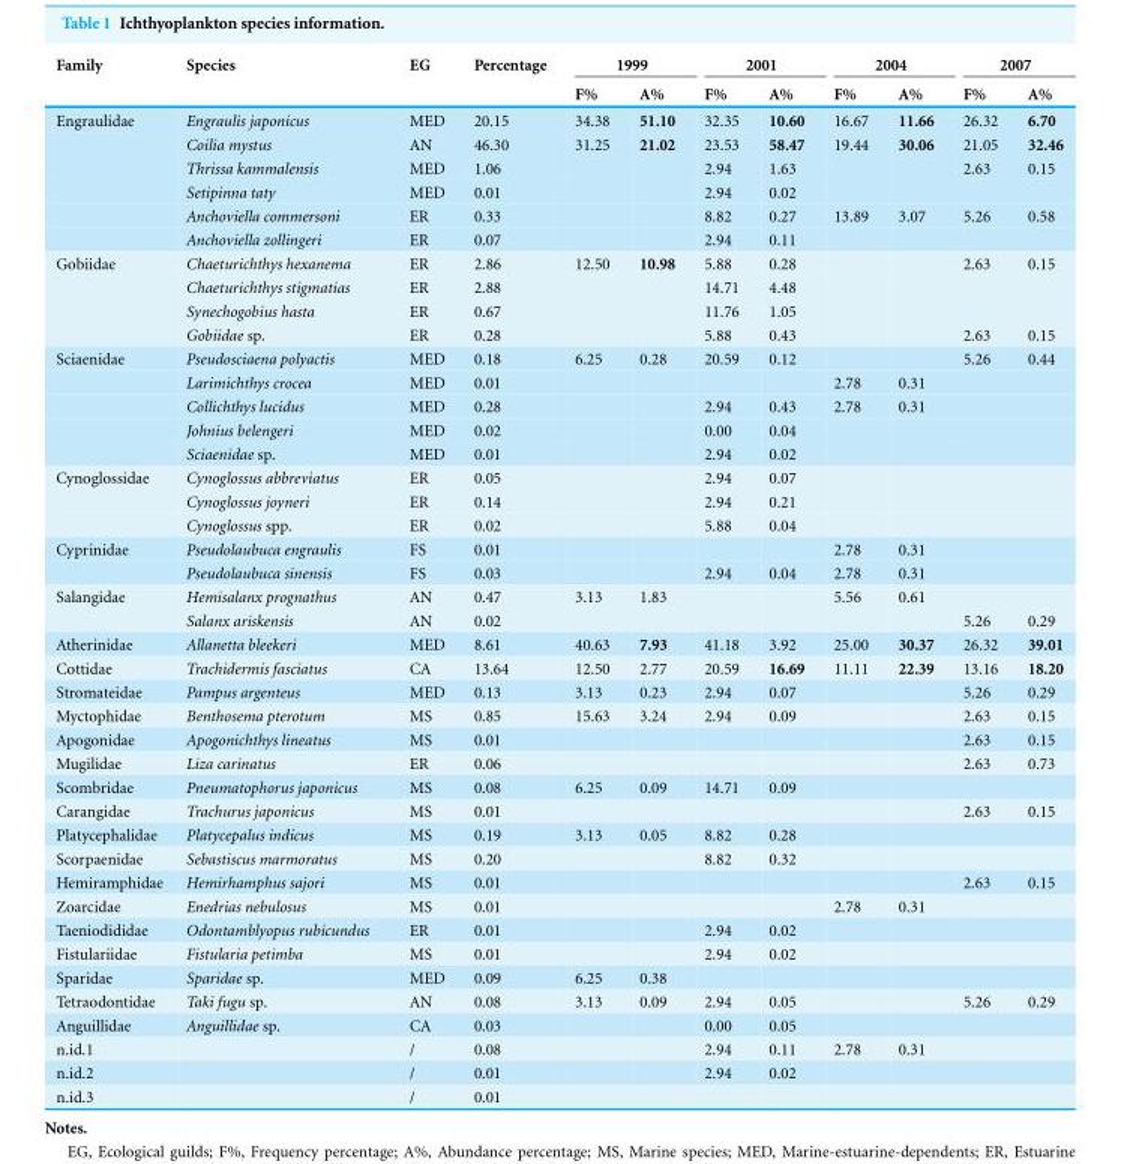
<table><thead><tr><td rowspan="2">Family</td><td rowspan="2">Species</td><td rowspan="2">EG</td><td rowspan="2">Percentage</td><td colspan="2">1999</td><td colspan="2">2001</td><td colspan="2">2004</td><td colspan="2">2007</td></tr><tr><td>F%</td><td>A%</td><td>F%</td><td>A%</td><td>F%</td><td>A%</td><td>F%</td><td>A%</td></tr></thead><tbody><tr><td rowspan="6">Engraulidae</td><td>Engraulis japonicus</td><td>MED</td><td>20.15</td><td>34.38</td><td>51.10</td><td>32.35</td><td>10.60</td><td>16.67</td><td>11.66</td><td>26.32</td><td>6.70</td></tr><tr><td>Coilia mystus</td><td>AN</td><td>46.30</td><td>31.25</td><td>21.02</td><td>23.53</td><td>58.47</td><td>19.44</td><td>30.06</td><td>21.05</td><td>32.46</td></tr><tr><td>Thrissa kammalensis</td><td>MED</td><td>1.06</td><td></td><td></td><td>2.94</td><td>1.63</td><td></td><td></td><td>2.63</td><td>0.15</td></tr><tr><td>Setipinna taty</td><td>MED</td><td>0.01</td><td></td><td></td><td>2.94</td><td>0.02</td><td></td><td></td><td></td><td></td></tr><tr><td>Anchoviella commersoni</td><td>ER</td><td>0.33</td><td></td><td></td><td>8.82</td><td>0.27</td><td>13.89</td><td>3.07</td><td>5.26</td><td>0.58</td></tr><tr><td>Anchoviella zollingeri</td><td>ER</td><td>0.07</td><td></td><td></td><td>2.94</td><td>0.11</td><td></td><td></td><td></td><td></td></tr><tr><td rowspan="4">Gobiidae</td><td>Chaeturichthys hexanema</td><td>ER</td><td>2.86</td><td>12.50</td><td>10.98</td><td>5.88</td><td>0.28</td><td></td><td></td><td>2.63</td><td>0.15</td></tr><tr><td>Chaeturichthys stigmatias</td><td>ER</td><td>2.88</td><td></td><td></td><td>14.71</td><td>4.48</td><td></td><td></td><td></td><td></td></tr><tr><td>Synechogobius hasta</td><td>ER</td><td>0.67</td><td></td><td></td><td>11.76</td><td>1.05</td><td></td><td></td><td></td><td></td></tr><tr><td>Gobiidae sp.</td><td>ER</td><td>0.28</td><td></td><td></td><td>5.88</td><td>0.43</td><td></td><td></td><td>2.63</td><td>0.15</td></tr><tr><td rowspan="5">Sciaenidae</td><td>Pseudosciaena polyactis</td><td>MED</td><td>0.18</td><td>6.25</td><td>0.28</td><td>20.59</td><td>0.12</td><td></td><td></td><td>5.26</td><td>0.44</td></tr><tr><td>Larimichthys crocea</td><td>MED</td><td>0.01</td><td></td><td></td><td></td><td></td><td>2.78</td><td>0.31</td><td></td><td></td></tr><tr><td>Collichthys lucidus</td><td>MED</td><td>0.28</td><td></td><td></td><td>2.94</td><td>0.43</td><td>2.78</td><td>0.31</td><td></td><td></td></tr><tr><td>Johnius belengeri</td><td>MED</td><td>0.02</td><td></td><td></td><td>0.00</td><td>0.04</td><td></td><td></td><td></td><td></td></tr><tr><td>Sciaenidae sp.</td><td>MED</td><td>0.01</td><td></td><td></td><td>2.94</td><td>0.02</td><td></td><td></td><td></td><td></td></tr><tr><td rowspan="3">Cynoglossidae</td><td>Cynoglossus abbreviatus</td><td>ER</td><td>0.05</td><td></td><td></td><td>2.94</td><td>0.07</td><td></td><td></td><td></td><td></td></tr><tr><td>Cynoglossus joyneri</td><td>ER</td><td>0.14</td><td></td><td></td><td>2.94</td><td>0.21</td><td></td><td></td><td></td><td></td></tr><tr><td>Cynoglossus spp.</td><td>ER</td><td>0.02</td><td></td><td></td><td>5.88</td><td>0.04</td><td></td><td></td><td></td><td></td></tr><tr><td rowspan="2">Cyprinidae</td><td>Pseudolaubuca engraulis</td><td>FS</td><td>0.01</td><td></td><td></td><td></td><td></td><td>2.78</td><td>0.31</td><td></td><td></td></tr><tr><td>Pseudolaubuca sinensis</td><td>FS</td><td>0.03</td><td></td><td></td><td>2.94</td><td>0.04</td><td>2.78</td><td>0.31</td><td></td><td></td></tr><tr><td rowspan="2">Salangidae</td><td>Hemisalanx prognathus</td><td>AN</td><td>0.47</td><td>3.13</td><td>1.83</td><td></td><td></td><td>5.56</td><td>0.61</td><td></td><td></td></tr><tr><td>Salanx ariskensis</td><td>AN</td><td>0.02</td><td></td><td></td><td></td><td></td><td></td><td></td><td>5.26</td><td>0.29</td></tr><tr><td>Atherinidae</td><td>Allanetta bleekeri</td><td>MED</td><td>8.61</td><td>40.63</td><td>7.93</td><td>41.18</td><td>3.92</td><td>25.00</td><td>30.37</td><td>26.32</td><td>39.01</td></tr><tr><td>Cottidae</td><td>Trachidermis fasciatus</td><td>CA</td><td>13.64</td><td>12.50</td><td>2.77</td><td>20.59</td><td>16.69</td><td>11.11</td><td>22.39</td><td>13.16</td><td>18.20</td></tr><tr><td>Stromateidae</td><td>Pampus argenteus</td><td>MED</td><td>0.13</td><td>3.13</td><td>0.23</td><td>2.94</td><td>0.07</td><td></td><td></td><td>5.26</td><td>0.29</td></tr><tr><td>Myctophidae</td><td>Benthosema pterotum</td><td>MS</td><td>0.85</td><td>15.63</td><td>3.24</td><td>2.94</td><td>0.09</td><td></td><td></td><td>2.63</td><td>0.15</td></tr><tr><td>Apogonidae</td><td>Apogonichthys lineatus</td><td>MS</td><td>0.01</td><td></td><td></td><td></td><td></td><td></td><td></td><td>2.63</td><td>0.15</td></tr><tr><td>Mugilidae</td><td>Liza carinatus</td><td>ER</td><td>0.06</td><td></td><td></td><td></td><td></td><td></td><td></td><td>2.63</td><td>0.73</td></tr><tr><td>Scombridae</td><td>Pneumatophorus japonicus</td><td>MS</td><td>0.08</td><td>6.25</td><td>0.09</td><td>14.71</td><td>0.09</td><td></td><td></td><td></td><td></td></tr><tr><td>Carangidae</td><td>Trachurus japonicus</td><td>MS</td><td>0.01</td><td></td><td></td><td></td><td></td><td></td><td></td><td>2.63</td><td>0.15</td></tr><tr><td>Platycephalidae</td><td>Platycepalus indicus</td><td>MS</td><td>0.19</td><td>3.13</td><td>0.05</td><td>8.82</td><td>0.28</td><td></td><td></td><td></td><td></td></tr><tr><td>Scorpaenidae</td><td>Sebastiscus marmoratus</td><td>MS</td><td>0.20</td><td></td><td></td><td>8.82</td><td>0.32</td><td></td><td></td><td></td><td></td></tr><tr><td>Hemiramphidae</td><td>Hemirhamphus sajori</td><td>MS</td><td>0.01</td><td></td><td></td><td></td><td></td><td></td><td></td><td>2.63</td><td>0.15</td></tr><tr><td>Zoarcidae</td><td>Enedrias nebulosus</td><td>MS</td><td>0.01</td><td></td><td></td><td></td><td></td><td>2.78</td><td>0.31</td><td></td><td></td></tr><tr><td>Taeniodididae</td><td>Odontamblyopus rubicundus</td><td>ER</td><td>0.01</td><td></td><td></td><td>2.94</td><td>0.02</td><td></td><td></td><td></td><td></td></tr><tr><td>Fistulariidae</td><td>Fistularia petimba</td><td>MS</td><td>0.01</td><td></td><td></td><td>2.94</td><td>0.02</td><td></td><td></td><td></td><td></td></tr><tr><td>Sparidae</td><td>Sparidae sp.</td><td>MED</td><td>0.09</td><td>6.25</td><td>0.38</td><td></td><td></td><td></td><td></td><td></td><td></td></tr><tr><td>Tetraodontidae</td><td>Taki fugu sp.</td><td>AN</td><td>0.08</td><td>3.13</td><td>0.09</td><td>2.94</td><td>0.05</td><td></td><td></td><td>5.26</td><td>0.29</td></tr><tr><td>Anguillidae</td><td>Anguillidae sp.</td><td>CA</td><td>0.03</td><td></td><td></td><td>0.00</td><td>0.05</td><td></td><td></td><td></td><td></td></tr><tr><td>n.id.1</td><td></td><td>/</td><td>0.08</td><td></td><td></td><td>2.94</td><td>0.11</td><td>2.78</td><td>0.31</td><td></td><td></td></tr><tr><td>n.id.2</td><td></td><td>/</td><td>0.01</td><td></td><td></td><td>2.94</td><td>0.02</td><td></td><td></td><td></td><td></td></tr><tr><td>n.id.3</td><td></td><td>/</td><td>0.01</td><td></td><td></td><td></td><td></td><td></td><td></td><td></td><td></td></tr></tbody></table>